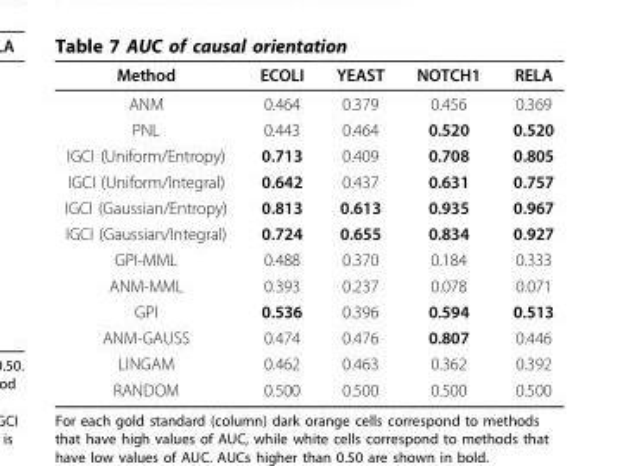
<table><thead><tr><td>Method</td><td>ECOLI</td><td>YEAST</td><td>NOTCH1</td><td>RELA</td></tr></thead><tbody><tr><td>ANM</td><td>0.464</td><td>0.379</td><td>0.456</td><td>0.369</td></tr><tr><td>PNL</td><td>0.443</td><td>0.464</td><td>0.520</td><td>0.520</td></tr><tr><td>IGCI (Uniform/Entropy)</td><td>0.713</td><td>0.409</td><td>0.708</td><td>0.805</td></tr><tr><td>IGCI (Uniform/Integral)</td><td>0.642</td><td>0.437</td><td>0.631</td><td>0.757</td></tr><tr><td>IGCI (Gaussian/Entropy)</td><td>0.813</td><td>0.613</td><td>0.935</td><td>0.967</td></tr><tr><td>IGCI (Gaussian/Integral)</td><td>0.724</td><td>0.655</td><td>0.834</td><td>0.927</td></tr><tr><td>GPI-MML</td><td>0.488</td><td>0.370</td><td>0.184</td><td>0.333</td></tr><tr><td>ANM-MML</td><td>0.393</td><td>0.237</td><td>0.078</td><td>0.071</td></tr><tr><td>GPI</td><td>0.536</td><td>0.396</td><td>0.594</td><td>0.513</td></tr><tr><td>ANM-GAUSS</td><td>0.474</td><td>0.476</td><td>0.807</td><td>0.446</td></tr><tr><td>LINGAM</td><td>0.462</td><td>0.463</td><td>0.362</td><td>0.392</td></tr><tr><td>RANDOM</td><td>0.500</td><td>0.500</td><td>0.500</td><td>0.500</td></tr></tbody></table>